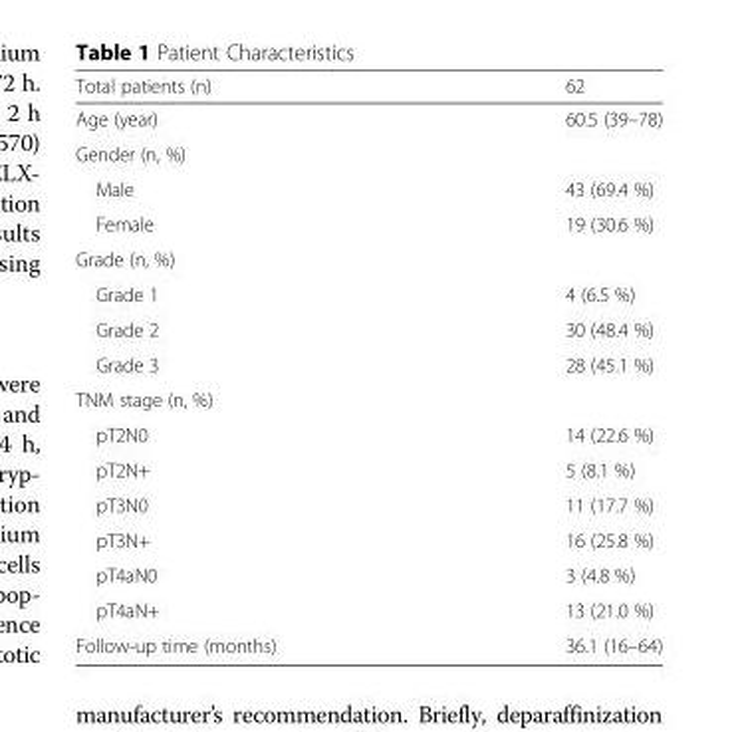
<table><thead><tr><td>Total patients (n)</td><td>62</td></tr></thead><tbody><tr><td>Age (year)</td><td>60.5 (39–78)</td></tr><tr><td colspan="2">Gender (n, %)</td></tr><tr><td>Male</td><td>43 (69.4 %)</td></tr><tr><td>Female</td><td>19 (30.6 %)</td></tr><tr><td colspan="2">Grade (n, %)</td></tr><tr><td>Grade 1</td><td>4 (6.5 %)</td></tr><tr><td>Grade 2</td><td>30 (48.4 %)</td></tr><tr><td>Grade 3</td><td>28 (45.1 %)</td></tr><tr><td colspan="2">TNM stage (n, %)</td></tr><tr><td>pT2N0</td><td>14 (22.6 %)</td></tr><tr><td>pT2N+</td><td>5 (8.1 %)</td></tr><tr><td>pT3N0</td><td>11 (17.7 %)</td></tr><tr><td>pT3N+</td><td>16 (25.8 %)</td></tr><tr><td>pT4aN0</td><td>3 (4.8 %)</td></tr><tr><td>pT4aN+</td><td>13 (21.0 %)</td></tr><tr><td>Follow-up time (months)</td><td>36.1 (16–64)</td></tr></tbody></table>